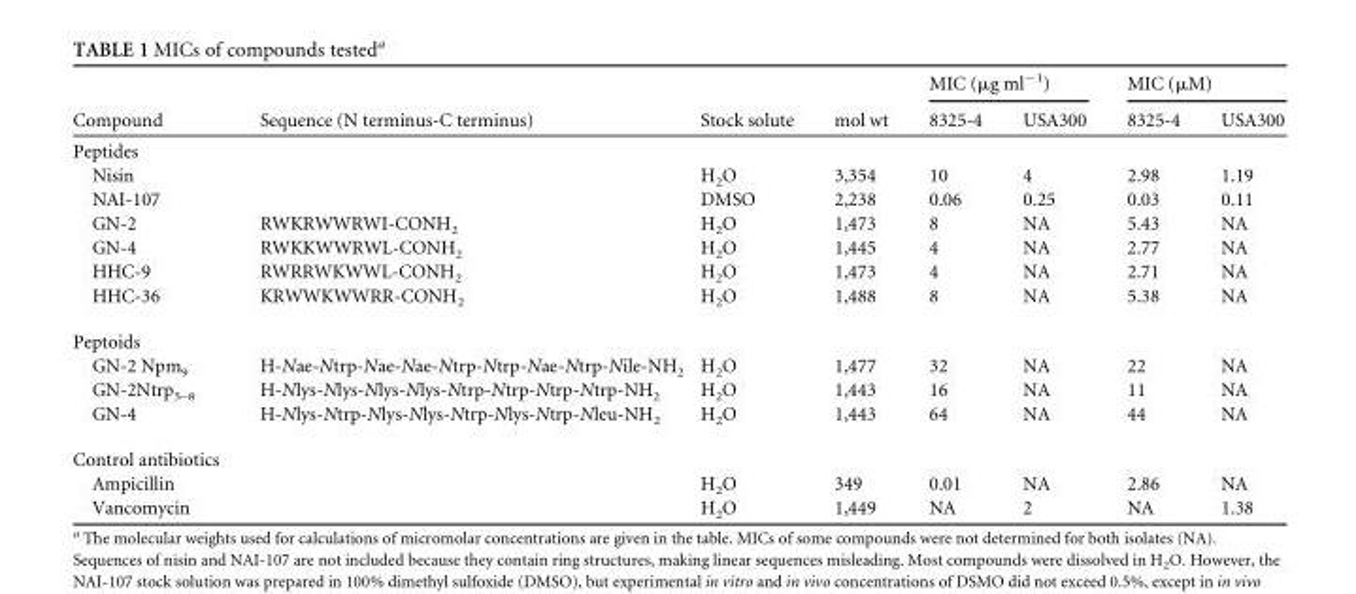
<table><thead><tr><td rowspan="2">Compound</td><td rowspan="2">Sequence (N terminus-C terminus)</td><td rowspan="2">Stock solute</td><td rowspan="2">mol wt</td><td colspan="2">MIC (μg ml<sup>−1</sup>)</td><td colspan="2">MIC (μM)</td></tr><tr><td>8325-4</td><td>USA300</td><td>8325-4</td><td>USA300</td></tr></thead><tbody><tr><td colspan="8">Peptides</td></tr><tr><td>Nisin</td><td></td><td>H<sub>2</sub>O</td><td>3,354</td><td>10</td><td>4</td><td>2.98</td><td>1.19</td></tr><tr><td>NAI-107</td><td></td><td>DMSO</td><td>2,238</td><td>0.06</td><td>0.25</td><td>0.03</td><td>0.11</td></tr><tr><td>GN-2</td><td>RWKRWWRWI-CONH<sub>2</sub></td><td>H<sub>2</sub>O</td><td>1,473</td><td>8</td><td>NA</td><td>5.43</td><td>NA</td></tr><tr><td>GN-4</td><td>RWKKWWRWL-CONH<sub>2</sub></td><td>H<sub>2</sub>O</td><td>1,445</td><td>4</td><td>NA</td><td>2.77</td><td>NA</td></tr><tr><td>HHC-9</td><td>RWRRWKWWL-CONH<sub>2</sub></td><td>H<sub>2</sub>O</td><td>1,473</td><td>4</td><td>NA</td><td>2.71</td><td>NA</td></tr><tr><td>HHC-36</td><td>KRWWKWWRR-CONH<sub>2</sub></td><td>H<sub>2</sub>O</td><td>1,488</td><td>8</td><td>NA</td><td>5.38</td><td>NA</td></tr><tr><td colspan="8">Peptoids</td></tr><tr><td>GN-2 Npm<sub>9</sub></td><td>H-Nae-Ntrp-Nae-Nae-Ntrp-Ntrp-Nae-Ntrp-Nile-NH<sub>2</sub></td><td>H<sub>2</sub>O</td><td>1,477</td><td>32</td><td>NA</td><td>22</td><td>NA</td></tr><tr><td>GN-2Ntrp<sub>5–8</sub></td><td>H-Nlys-Nlys-Nlys-Nlys-Ntrp-Ntrp-Ntrp-Ntrp-NH<sub>2</sub></td><td>H<sub>2</sub>O</td><td>1,443</td><td>16</td><td>NA</td><td>11</td><td>NA</td></tr><tr><td>GN-4</td><td>H-Nlys-Ntrp-Nlys-Nlys-Ntrp-Nlys-Ntrp-Nleu-NH<sub>2</sub></td><td>H<sub>2</sub>O</td><td>1,443</td><td>64</td><td>NA</td><td>44</td><td>NA</td></tr><tr><td colspan="8">Control antibiotics</td></tr><tr><td>Ampicillin</td><td></td><td>H<sub>2</sub>O</td><td>349</td><td>0.01</td><td>NA</td><td>2.86</td><td>NA</td></tr><tr><td>Vancomycin</td><td></td><td>H<sub>2</sub>O</td><td>1,449</td><td>NA</td><td>2</td><td>NA</td><td>1.38</td></tr></tbody></table>